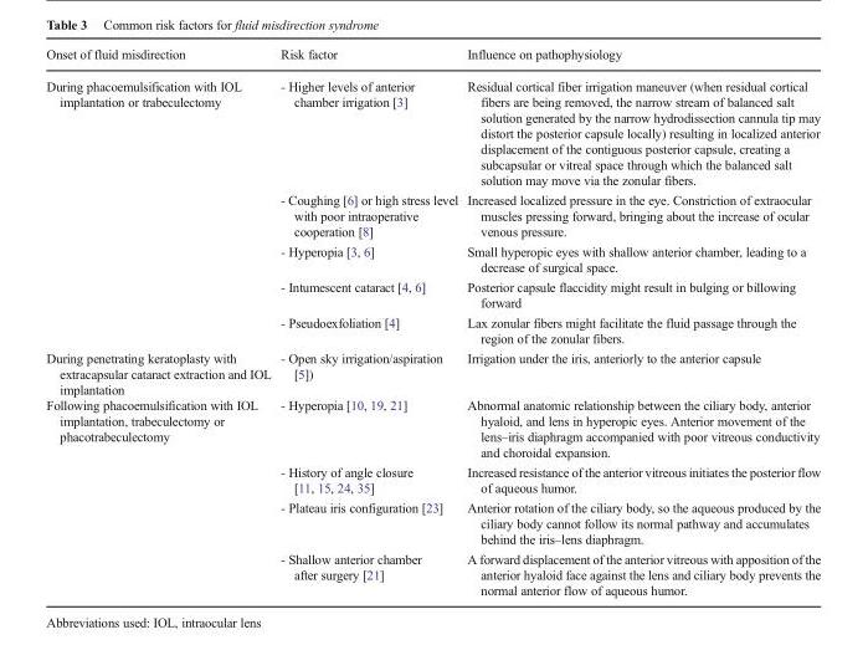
<table><thead><tr><td>Onset of fluid misdirection</td><td>Risk factor</td><td>Influence on pathophysiology</td></tr></thead><tbody><tr><td rowspan="5">During phacoemulsification with IOL implantation or trabeculectomy</td><td>- Higher levels of anterior chamber irrigation [3]</td><td>Residual cortical fiber irrigation maneuver (when residual cortical fibers are being removed, the narrow stream of balanced salt solution generated by the narrow hydrodissection cannula tip may distort the posterior capsule locally) resulting in localized anterior displacement of the contiguous posterior capsule, creating a subcapsular or vitreal space through which the balanced salt solution may move via the zonular fibers.</td></tr><tr><td>- Coughing [6] or high stress level with poor intraoperative cooperation [8]</td><td>Increased localized pressure in the eye. Constriction of extraocular muscles pressing forward, bringing about the increase of ocular venous pressure.</td></tr><tr><td>- Hyperopia [3, 6]</td><td>Small hyperopic eyes with shallow anterior chamber, leading to a decrease of surgical space.</td></tr><tr><td>- Intumescent cataract [4, 6]</td><td>Posterior capsule flaccidity might result in bulging or billowing forward</td></tr><tr><td>- Pseudoexfoliation [4]</td><td>Lax zonular fibers might facilitate the fluid passage through the region of the zonular fibers.</td></tr><tr><td>During penetrating keratoplasty with extracapsular cataract extraction and IOL implantation</td><td>- Open sky irrigation/aspiration [5])</td><td>Irrigation under the iris, anteriorly to the anterior capsule</td></tr><tr><td rowspan="4">Following phacoemulsification with IOL implantation, trabeculectomy or phacotrabeculectomy</td><td>- Hyperopia [10, 19, 21]</td><td>Abnormal anatomic relationship between the ciliary body, anterior hyaloid, and lens in hyperopic eyes. Anterior movement of the lens–iris diaphragm accompanied with poor vitreous conductivity and choroidal expansion.</td></tr><tr><td>- History of angle closure [11, 15, 24, 35]</td><td>Increased resistance of the anterior vitreous initiates the posterior flow of aqueous humor.</td></tr><tr><td>- Plateau iris configuration [23]</td><td>Anterior rotation of the ciliary body, so the aqueous produced by the ciliary body cannot follow its normal pathway and accumulates behind the iris–lens diaphragm.</td></tr><tr><td>- Shallow anterior chamber after surgery [21]</td><td>A forward displacement of the anterior vitreous with apposition of the anterior hyaloid face against the lens and ciliary body prevents the normal anterior flow of aqueous humor.</td></tr></tbody></table>